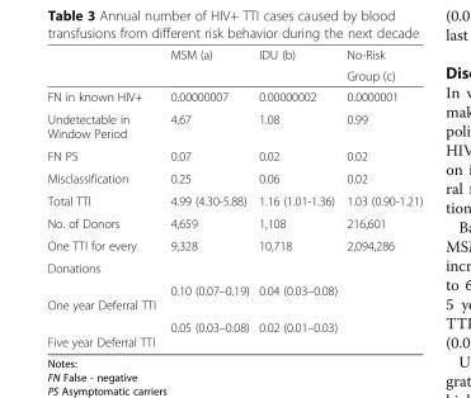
<table><thead><tr><td rowspan="2"></td><td rowspan="2">MSM (a)</td><td rowspan="2">IDU (b)</td><td rowspan="2">No-Risk Group (c)</td></tr><tr></tr></thead><tbody><tr><td>FN in known HIV+</td><td>0.00000007</td><td>0.00000002</td><td>0.0000001</td></tr><tr><td>Undetectable in Window Period</td><td>4.67</td><td>1.08</td><td>0.99</td></tr><tr><td>FN PS</td><td>0.07</td><td>0.02</td><td>0.02</td></tr><tr><td>Misclassification</td><td>0.25</td><td>0.06</td><td>0.02</td></tr><tr><td>Total TTI</td><td>4.99 (4.30-5.88)</td><td>1.16 (1.01-1.36)</td><td>1.03 (0.90-1.21)</td></tr><tr><td>No. of Donors</td><td>4,659</td><td>1,108</td><td>216,601</td></tr><tr><td>One TTI for every</td><td>9,328</td><td>10,718</td><td>2,094,286</td></tr><tr><td colspan="4">Donations</td></tr><tr><td>One year Deferral TTI</td><td>0.10 (0.07–0.19)</td><td>0.04 (0.03–0.08)</td><td></td></tr><tr><td>Five year Deferral TTI</td><td>0.05 (0.03–0.08)</td><td>0.02 (0.01–0.03)</td><td></td></tr></tbody></table>